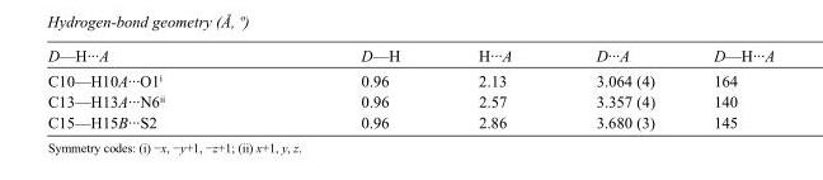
<table><tbody><tr><td>D—H···A</td><td>D—H</td><td>H···A</td><td>D···A</td><td>D—H···A</td></tr><tr><td>C10—H10A···O1<sup>i</sup></td><td>0.96</td><td>2.13</td><td>3.064 (4)</td><td>164</td></tr><tr><td>C13—H13A···N6<sup>ii</sup></td><td>0.96</td><td>2.57</td><td>3.357 (4)</td><td>140</td></tr><tr><td>C15—H15B···S2</td><td>0.96</td><td>2.86</td><td>3.680 (3)</td><td>145</td></tr></tbody></table>